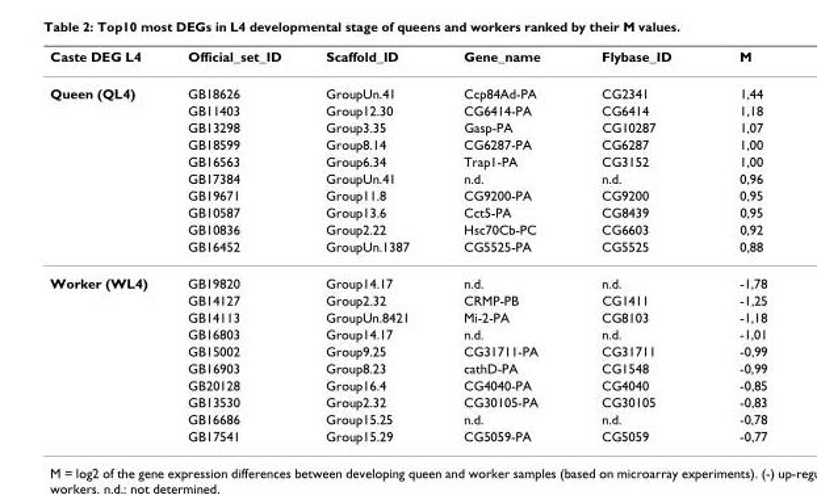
<table><thead><tr><td>Caste DEG L4</td><td>Official_set_ID</td><td>Scaffold_ID</td><td>Gene_name</td><td>Flybase_ID</td><td>M</td></tr></thead><tbody><tr><td rowspan="10">Queen (QL4)</td><td>GB18626</td><td>GroupUn.41</td><td>Ccp84Ad-PA</td><td>CG2341</td><td>1,44</td></tr><tr><td>GB11403</td><td>Group12.30</td><td>CG6414-PA</td><td>CG6414</td><td>1,18</td></tr><tr><td>GB13298</td><td>Group3.35</td><td>Gasp-PA</td><td>CG10287</td><td>1,07</td></tr><tr><td>GB18599</td><td>Group8.14</td><td>CG6287-PA</td><td>CG6287</td><td>1,00</td></tr><tr><td>GB16563</td><td>Group6.34</td><td>Trap1-PA</td><td>CG3152</td><td>1,00</td></tr><tr><td>GB17384</td><td>GroupUn.41</td><td>n.d.</td><td>n.d.</td><td>0,96</td></tr><tr><td>GB19671</td><td>Group11.8</td><td>CG9200-PA</td><td>CG9200</td><td>0,95</td></tr><tr><td>GB10587</td><td>Group13.6</td><td>Cct5-PA</td><td>CG8439</td><td>0,95</td></tr><tr><td>GB10836</td><td>Group2.22</td><td>Hsc70Cb-PC</td><td>CG6603</td><td>0,92</td></tr><tr><td>GB16452</td><td>GroupUn.1387</td><td>CG5525-PA</td><td>CG5525</td><td>0,88</td></tr><tr><td rowspan="10">Worker (WL4)</td><td>GB19820</td><td>Group14.17</td><td>n.d.</td><td>n.d.</td><td>-1,78</td></tr><tr><td>GB14127</td><td>Group2.32</td><td>CRMP-PB</td><td>CG1411</td><td>-1,25</td></tr><tr><td>GB14113</td><td>GroupUn.8421</td><td>Mi-2-PA</td><td>CG8103</td><td>-1,18</td></tr><tr><td>GB16803</td><td>Group14.17</td><td>n.d.</td><td>n.d.</td><td>-1,01</td></tr><tr><td>GB15002</td><td>Group9.25</td><td>CG31711-PA</td><td>CG31711</td><td>-0,99</td></tr><tr><td>GB16903</td><td>Group8.23</td><td>cathD-PA</td><td>CG1548</td><td>-0,99</td></tr><tr><td>GB20128</td><td>Group16.4</td><td>CG4040-PA</td><td>CG4040</td><td>-0,85</td></tr><tr><td>GB13530</td><td>Group2.32</td><td>CG30105-PA</td><td>CG30105</td><td>-0,83</td></tr><tr><td>GB16686</td><td>Group15.25</td><td>n.d.</td><td>n.d.</td><td>-0,78</td></tr><tr><td>GB17541</td><td>Group15.29</td><td>CG5059-PA</td><td>CG5059</td><td>-0,77</td></tr></tbody></table>